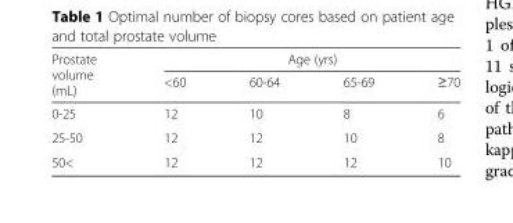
<table><thead><tr><td rowspan="2">Prostate volume (mL)</td><td colspan="4">Age (yrs)</td></tr><tr><td>&lt;60</td><td>60-64</td><td>65-69</td><td>≥70</td></tr></thead><tbody><tr><td>0-25</td><td>12</td><td>10</td><td>8</td><td>6</td></tr><tr><td>25-50</td><td>12</td><td>12</td><td>10</td><td>8</td></tr><tr><td>50&lt;</td><td>12</td><td>12</td><td>12</td><td>10</td></tr></tbody></table>